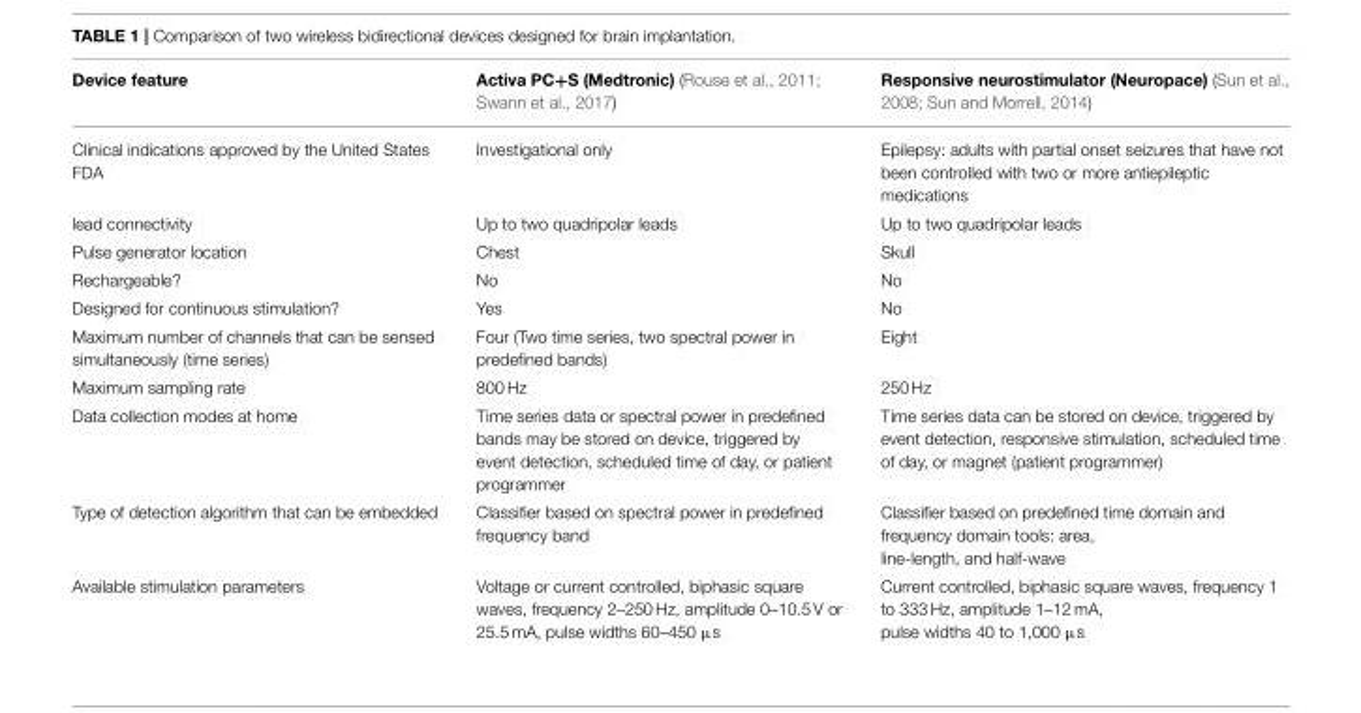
<table><thead><tr><td>Device feature</td><td>Activa PC+S (Medtronic) (Rouse et al., 2011; Swann et al., 2017)</td><td>Responsive neurostimulator (Neuropace) (Sun et al., 2008; Sun and Morrell, 2014)</td></tr></thead><tbody><tr><td>Clinical indications approved by the United States FDA</td><td>Investigational only</td><td>Epilepsy: adults with partial onset seizures that have not been controlled with two or more antiepileptic medications</td></tr><tr><td>lead connectivity</td><td>Up to two quadripolar leads</td><td>Up to two quadripolar leads</td></tr><tr><td>Pulse generator location</td><td>Chest</td><td>Skull</td></tr><tr><td>Rechargeable?</td><td>No</td><td>No</td></tr><tr><td>Designed for continuous stimulation?</td><td>Yes</td><td>No</td></tr><tr><td>Maximum number of channels that can be sensed simultaneously (time series)</td><td>Four (Two time series, two spectral power in predefined bands)</td><td>Eight</td></tr><tr><td>Maximum sampling rate</td><td>800 Hz</td><td>250 Hz</td></tr><tr><td>Data collection modes at home</td><td>Time series data or spectral power in predefined bands may be stored on device, triggered by event detection, scheduled time of day, or patient programmer</td><td>Time series data can be stored on device, triggered by event detection, responsive stimulation, scheduled time of day, or magnet (patient programmer)</td></tr><tr><td>Type of detection algorithm that can be embedded</td><td>Classifier based on spectral power in predefined frequency band</td><td>Classifier based on predefined time domain and frequency domain tools: area, line-length, and half-wave</td></tr><tr><td>Available stimulation parameters</td><td>Voltage or current controlled, biphasic square waves, frequency 2–250 Hz, amplitude 0–10.5 V or 25.5 mA, pulse widths 60–450 µs</td><td>Current controlled, biphasic square waves, frequency 1 to 333 Hz, amplitude 1–12 mA, pulse widths 40 to 1,000 µs</td></tr></tbody></table>